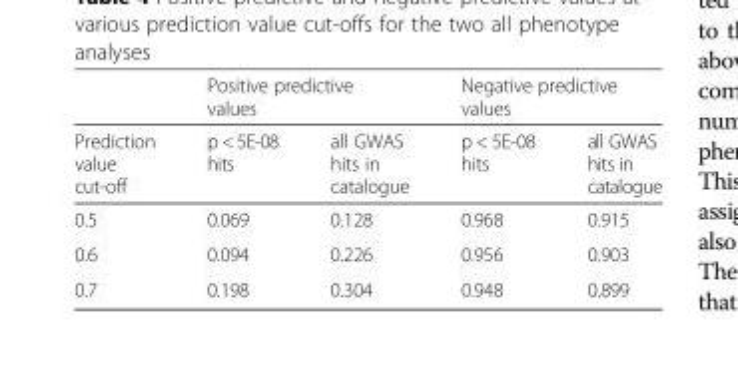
<table><thead><tr><td rowspan="2">Prediction value cut-off</td><td colspan="2">Positive predictive values</td><td colspan="2">Negative predictive values</td></tr><tr><td>p &lt; 5E-08 hits</td><td>all GWAS hits in catalogue</td><td>p &lt; 5E-08 hits</td><td>all GWAS hits in catalogue</td></tr></thead><tbody><tr><td>0.5</td><td>0.069</td><td>0.128</td><td>0.968</td><td>0.915</td></tr><tr><td>0.6</td><td>0.094</td><td>0.226</td><td>0.956</td><td>0.903</td></tr><tr><td>0.7</td><td>0.198</td><td>0.304</td><td>0.948</td><td>0.899</td></tr></tbody></table>